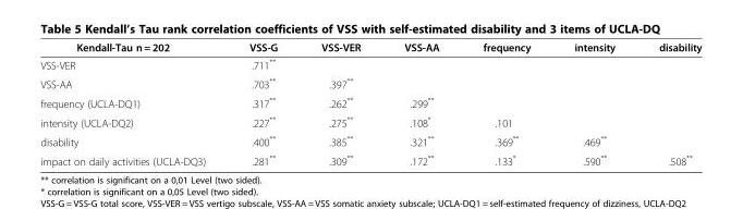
<table><thead><tr><td>Kendall-Tau n = 202</td><td>VSS-G</td><td>VSS-VER</td><td>VSS-AA</td><td>frequency</td><td>intensity</td><td>disability</td></tr></thead><tbody><tr><td>VSS-VER</td><td>.711**</td><td></td><td></td><td></td><td></td><td></td></tr><tr><td>VSS-AA</td><td>.703**</td><td>.397**</td><td></td><td></td><td></td><td></td></tr><tr><td>frequency (UCLA-DQ1)</td><td>.317**</td><td>.262**</td><td>.299**</td><td></td><td></td><td></td></tr><tr><td>intensity (UCLA-DQ2)</td><td>.227**</td><td>.275**</td><td>.108*</td><td>.101</td><td></td><td></td></tr><tr><td>disability</td><td>.400**</td><td>.385**</td><td>.321**</td><td>.369**</td><td>.469**</td><td></td></tr><tr><td>impact on daily activities (UCLA-DQ3)</td><td>.281**</td><td>.309**</td><td>.172**</td><td>.133*</td><td>.590**</td><td>.508**</td></tr></tbody></table>